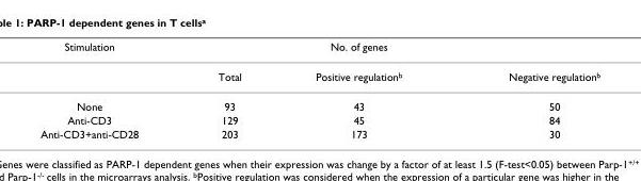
<table><thead><tr><td>Stimulation</td><td></td><td>No. of genes</td><td></td></tr></thead><tbody><tr><td></td><td>Total</td><td>Positive regulation<sup>b</sup></td><td>Negative regulation<sup>b</sup></td></tr><tr><td>None</td><td>93</td><td>43</td><td>50</td></tr><tr><td>Anti-CD3</td><td>129</td><td>45</td><td>84</td></tr><tr><td>Anti-CD3+anti-CD28</td><td>203</td><td>173</td><td>30</td></tr></tbody></table>